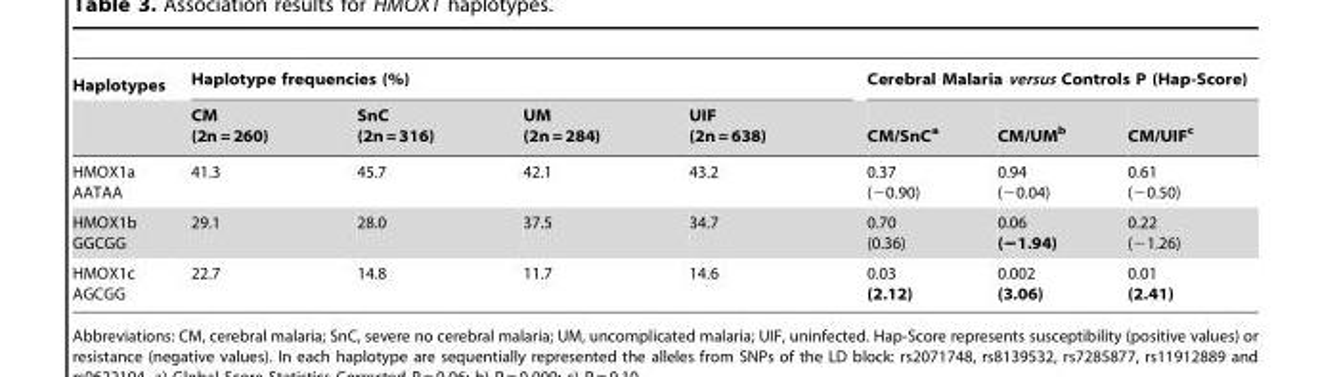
<table><thead><tr><td rowspan="2">Haplotypes</td><td colspan="4">Haplotype frequencies (%)</td><td colspan="3">Cerebral Malaria versus Controls P (Hap-Score)</td></tr><tr><td>CM (2n = 260)</td><td>SnC (2n = 316)</td><td>UM (2n = 284)</td><td>UIF (2n = 638)</td><td>CM/SnC<sup>a</sup></td><td>CM/UM<sup>b</sup></td><td>CM/UIF<sup>c</sup></td></tr></thead><tbody><tr><td>HMOX1a AATAA</td><td>41.3</td><td>45.7</td><td>42.1</td><td>43.2</td><td>0.37 (−0.90)</td><td>0.94 (−0.04)</td><td>0.61 (−0.50)</td></tr><tr><td>HMOX1b GGCGG</td><td>29.1</td><td>28.0</td><td>37.5</td><td>34.7</td><td>0.70 (0.36)</td><td>0.06 (−1.94)</td><td>0.22 (−1.26)</td></tr><tr><td>HMOX1c AGCGG</td><td>22.7</td><td>14.8</td><td>11.7</td><td>14.6</td><td>0.03 (2.12)</td><td>0.002 (3.06)</td><td>0.01 (2.41)</td></tr></tbody></table>